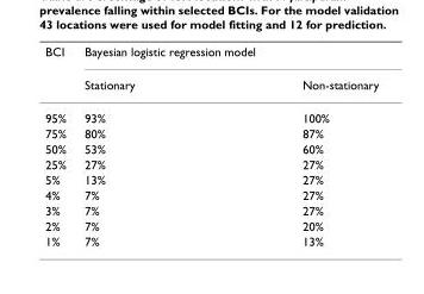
<table><thead><tr><td rowspan="2">BCI</td><td rowspan="2">Bayesian logistic regression model Stationary</td><td rowspan="2">Non-stationary</td></tr><tr></tr></thead><tbody><tr><td>95%</td><td>93%</td><td>100%</td></tr><tr><td>75%</td><td>80%</td><td>87%</td></tr><tr><td>50%</td><td>53%</td><td>60%</td></tr><tr><td>25%</td><td>27%</td><td>27%</td></tr><tr><td>5%</td><td>13%</td><td>27%</td></tr><tr><td>4%</td><td>7%</td><td>27%</td></tr><tr><td>3%</td><td>7%</td><td>27%</td></tr><tr><td>2%</td><td>7%</td><td>20%</td></tr><tr><td>1%</td><td>7%</td><td>13%</td></tr></tbody></table>